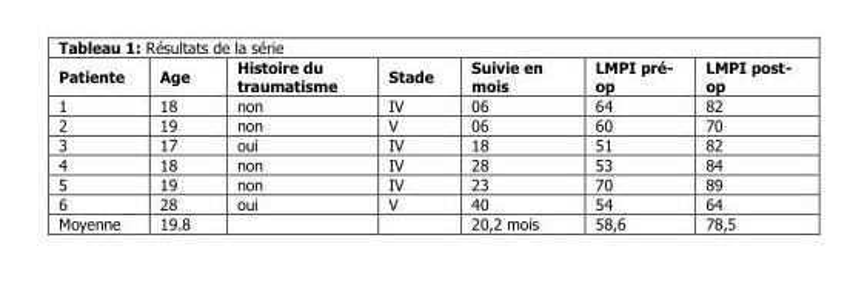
<table><thead><tr><td>Patiente</td><td>Age</td><td>Histoire du traumatisme</td><td>Stade</td><td>Suivie en mois</td><td>LMPI pré- op</td><td>LMPI post- op</td></tr></thead><tbody><tr><td>1</td><td>18</td><td>non</td><td>IV</td><td>06</td><td>64</td><td>82</td></tr><tr><td>2</td><td>19</td><td>non</td><td>V</td><td>06</td><td>60</td><td>70</td></tr><tr><td>3</td><td>17</td><td>oui</td><td>IV</td><td>18</td><td>51</td><td>82</td></tr><tr><td>4</td><td>18</td><td>non</td><td>IV</td><td>28</td><td>53</td><td>84</td></tr><tr><td>5</td><td>19</td><td>non</td><td>IV</td><td>23</td><td>70</td><td>89</td></tr><tr><td>6</td><td>28</td><td>oui</td><td>V</td><td>40</td><td>54</td><td>64</td></tr><tr><td>Moyenne</td><td>19.8</td><td></td><td></td><td>20,2 mois</td><td>58,6</td><td>78,5</td></tr></tbody></table>